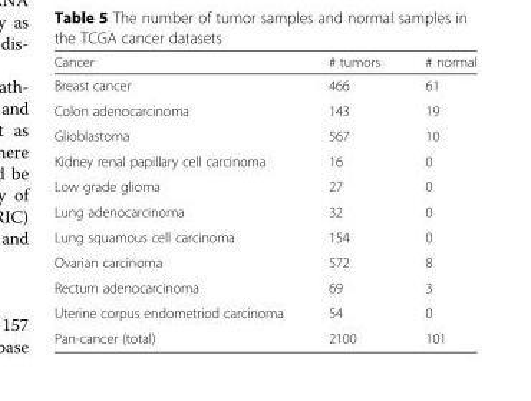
<table><thead><tr><td>Cancer</td><td># tumors</td><td># normal</td></tr></thead><tbody><tr><td>Breast cancer</td><td>466</td><td>61</td></tr><tr><td>Colon adenocarcinoma</td><td>143</td><td>19</td></tr><tr><td>Glioblastoma</td><td>567</td><td>10</td></tr><tr><td>Kidney renal papillary cell carcinoma</td><td>16</td><td>0</td></tr><tr><td>Low grade glioma</td><td>27</td><td>0</td></tr><tr><td>Lung adenocarcinoma</td><td>32</td><td>0</td></tr><tr><td>Lung squamous cell carcinoma</td><td>154</td><td>0</td></tr><tr><td>Ovarian carcinoma</td><td>572</td><td>8</td></tr><tr><td>Rectum adenocarcinoma</td><td>69</td><td>3</td></tr><tr><td>Uterine corpus endometriod carcinoma</td><td>54</td><td>0</td></tr><tr><td>Pan-cancer (total)</td><td>2100</td><td>101</td></tr></tbody></table>